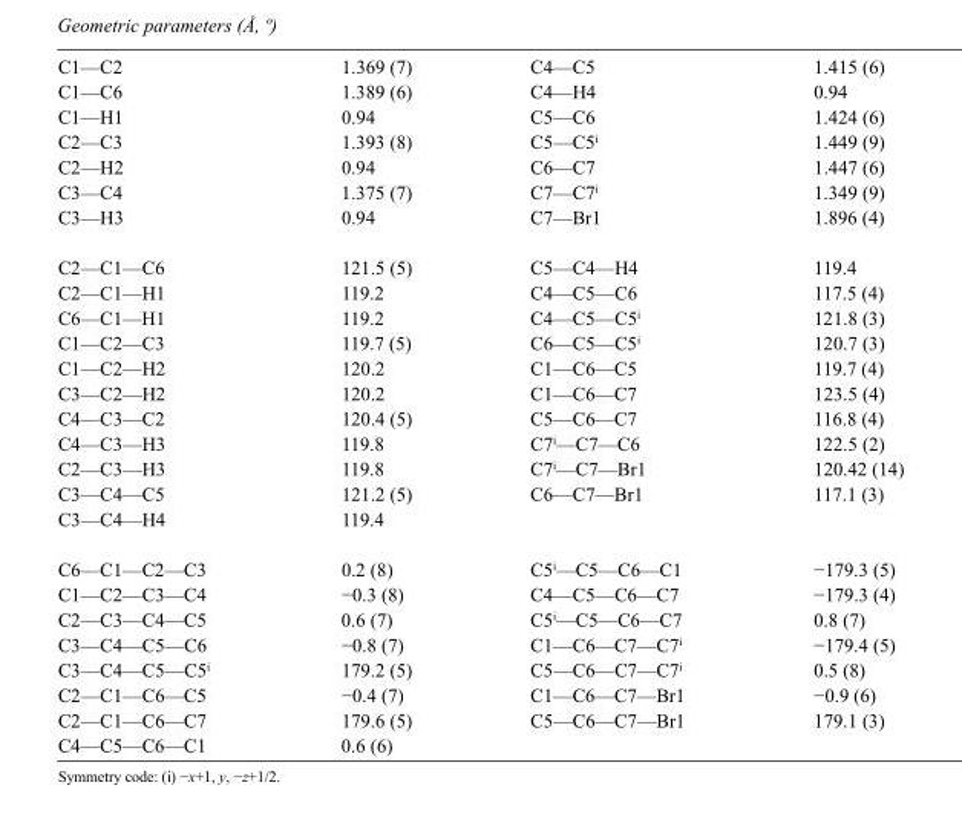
<table><tbody><tr><td>C1—C2</td><td>1.369 (7)</td><td>C4—C5</td><td>1.415 (6)</td></tr><tr><td>C1—C6</td><td>1.389 (6)</td><td>C4—H4</td><td>0.94</td></tr><tr><td>C1—H1</td><td>0.94</td><td>C5—C6</td><td>1.424 (6)</td></tr><tr><td>C2—C3</td><td>1.393 (8)</td><td>C5—C5<sup>i</sup></td><td>1.449 (9)</td></tr><tr><td>C2—H2</td><td>0.94</td><td>C6—C7</td><td>1.447 (6)</td></tr><tr><td>C3—C4</td><td>1.375 (7)</td><td>C7—C7<sup>i</sup></td><td>1.349 (9)</td></tr><tr><td>C3—H3</td><td>0.94</td><td>C7—Br1</td><td>1.896 (4)</td></tr><tr><td>C2—C1—C6</td><td>121.5 (5)</td><td>C5—C4—H4</td><td>119.4</td></tr><tr><td>C2—C1—H1</td><td>119.2</td><td>C4—C5—C6</td><td>117.5 (4)</td></tr><tr><td>C6—C1—H1</td><td>119.2</td><td>C4—C5—C5<sup>i</sup></td><td>121.8 (3)</td></tr><tr><td>C1—C2—C3</td><td>119.7 (5)</td><td>C6—C5—C5<sup>i</sup></td><td>120.7 (3)</td></tr><tr><td>C1—C2—H2</td><td>120.2</td><td>C1—C6—C5</td><td>119.7 (4)</td></tr><tr><td>C3—C2—H2</td><td>120.2</td><td>C1—C6—C7</td><td>123.5 (4)</td></tr><tr><td>C4—C3—C2</td><td>120.4 (5)</td><td>C5—C6—C7</td><td>116.8 (4)</td></tr><tr><td>C4—C3—H3</td><td>119.8</td><td>C7<sup>i</sup>—C7—C6</td><td>122.5 (2)</td></tr><tr><td>C2—C3—H3</td><td>119.8</td><td>C7<sup>i</sup>—C7—Br1</td><td>120.42 (14)</td></tr><tr><td>C3—C4—C5</td><td>121.2 (5)</td><td>C6—C7—Br1</td><td>117.1 (3)</td></tr><tr><td>C3—C4—H4</td><td>119.4</td><td></td><td></td></tr><tr><td>C6—C1—C2—C3</td><td>0.2 (8)</td><td>C5<sup>i</sup>—C5—C6—C1</td><td>−179.3 (5)</td></tr><tr><td>C1—C2—C3—C4</td><td>−0.3 (8)</td><td>C4—C5—C6—C7</td><td>−179.3 (4)</td></tr><tr><td>C2—C3—C4—C5</td><td>0.6 (7)</td><td>C5<sup>i</sup>—C5—C6—C7</td><td>0.8 (7)</td></tr><tr><td>C3—C4—C5—C6</td><td>−0.8 (7)</td><td>C1—C6—C7—C7<sup>i</sup></td><td>−179.4 (5)</td></tr><tr><td>C3—C4—C5—C5<sup>i</sup></td><td>179.2 (5)</td><td>C5—C6—C7—C7<sup>i</sup></td><td>0.5 (8)</td></tr><tr><td>C2—C1—C6—C5</td><td>−0.4 (7)</td><td>C1—C6—C7—Br1</td><td>−0.9 (6)</td></tr><tr><td>C2—C1—C6—C7</td><td>179.6 (5)</td><td>C5—C6—C7—Br1</td><td>179.1 (3)</td></tr><tr><td>C4—C5—C6—C1</td><td>0.6 (6)</td><td></td><td></td></tr></tbody></table>